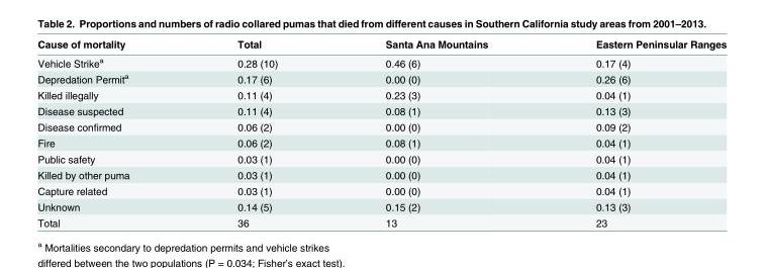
<table><thead><tr><td>Cause of mortality</td><td>Total</td><td>Santa Ana Mountains</td><td>Eastern Peninsular Ranges</td></tr></thead><tbody><tr><td>Vehicle Strike<sup>a</sup></td><td>0.28 (10)</td><td>0.46 (6)</td><td>0.17 (4)</td></tr><tr><td>Depredation Permit<sup>a</sup></td><td>0.17 (6)</td><td>0.00 (0)</td><td>0.26 (6)</td></tr><tr><td>Killed illegally</td><td>0.11 (4)</td><td>0.23 (3)</td><td>0.04 (1)</td></tr><tr><td>Disease suspected</td><td>0.11 (4)</td><td>0.08 (1)</td><td>0.13 (3)</td></tr><tr><td>Disease confirmed</td><td>0.06 (2)</td><td>0.00 (0)</td><td>0.09 (2)</td></tr><tr><td>Fire</td><td>0.06 (2)</td><td>0.08 (1)</td><td>0.04 (1)</td></tr><tr><td>Public safety</td><td>0.03 (1)</td><td>0.00 (0)</td><td>0.04 (1)</td></tr><tr><td>Killed by other puma</td><td>0.03 (1)</td><td>0.00 (0)</td><td>0.04 (1)</td></tr><tr><td>Capture related</td><td>0.03 (1)</td><td>0.00 (0)</td><td>0.04 (1)</td></tr><tr><td>Unknown</td><td>0.14 (5)</td><td>0.15 (2)</td><td>0.13 (3)</td></tr><tr><td>Total</td><td>36</td><td>13</td><td>23</td></tr></tbody></table>